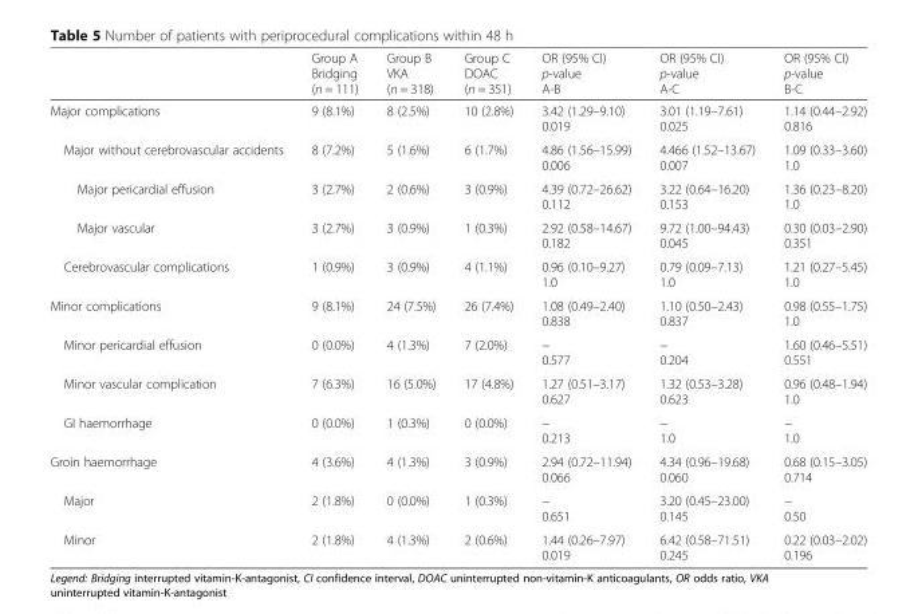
<table><thead><tr><td></td><td>Group A Bridging (n = 111)</td><td>Group B VKA (n = 318)</td><td>Group C DOAC (n = 351)</td><td>OR (95% CI) p-value A-B</td><td>OR (95% CI) p-value A-C</td><td>OR (95% CI) p-value B-C</td></tr></thead><tbody><tr><td>Major complications</td><td>9 (8.1%)</td><td>8 (2.5%)</td><td>10 (2.8%)</td><td>3.42 (1.29–9.10) 0.019</td><td>3.01 (1.19–7.61) 0.025</td><td>1.14 (0.44–2.92) 0.816</td></tr><tr><td>Major without cerebrovascular accidents</td><td>8 (7.2%)</td><td>5 (1.6%)</td><td>6 (1.7%)</td><td>4.86 (1.56–15.99) 0.006</td><td>4.466 (1.52–13.67) 0.007</td><td>1.09 (0.33–3.60) 1.0</td></tr><tr><td>Major pericardial effusion</td><td>3 (2.7%)</td><td>2 (0.6%)</td><td>3 (0.9%)</td><td>4.39 (0.72–26.62) 0.112</td><td>3.22 (0.64–16.20) 0.153</td><td>1.36 (0.23–8.20) 1.0</td></tr><tr><td>Major vascular</td><td>3 (2.7%)</td><td>3 (0.9%)</td><td>1 (0.3%)</td><td>2.92 (0.58–14.67) 0.182</td><td>9.72 (1.00–94.43) 0.045</td><td>0.30 (0.03–2.90) 0.351</td></tr><tr><td>Cerebrovascular complications</td><td>1 (0.9%)</td><td>3 (0.9%)</td><td>4 (1.1%)</td><td>0.96 (0.10–9.27) 1.0</td><td>0.79 (0.09–7.13) 1.0</td><td>1.21 (0.27–5.45) 1.0</td></tr><tr><td>Minor complications</td><td>9 (8.1%)</td><td>24 (7.5%)</td><td>26 (7.4%)</td><td>1.08 (0.49–2.40) 0.838</td><td>1.10 (0.50–2.43) 0.837</td><td>0.98 (0.55–1.75) 1.0</td></tr><tr><td>Minor pericardial effusion</td><td>0 (0.0%)</td><td>4 (1.3%)</td><td>7 (2.0%)</td><td>− 0.577</td><td>− 0.204</td><td>1.60 (0.46–5.51) 0.551</td></tr><tr><td>Minor vascular complication</td><td>7 (6.3%)</td><td>16 (5.0%)</td><td>17 (4.8%)</td><td>1.27 (0.51–3.17) 0.627</td><td>1.32 (0.53–3.28) 0.623</td><td>0.96 (0.48–1.94) 1.0</td></tr><tr><td>GI haemorrhage</td><td>0 (0.0%)</td><td>1 (0.3%)</td><td>0 (0.0%)</td><td>− 0.213</td><td>− 1.0</td><td>− 1.0</td></tr><tr><td>Groin haemorrhage</td><td>4 (3.6%)</td><td>4 (1.3%)</td><td>3 (0.9%)</td><td>2.94 (0.72–11.94) 0.066</td><td>4.34 (0.96–19.68) 0.060</td><td>0.68 (0.15–3.05) 0.714</td></tr><tr><td>Major</td><td>2 (1.8%)</td><td>0 (0.0%)</td><td>1 (0.3%)</td><td>− 0.651</td><td>3.20 (0.45–23.00) 0.145</td><td>− 0.50</td></tr><tr><td>Minor</td><td>2 (1.8%)</td><td>4 (1.3%)</td><td>2 (0.6%)</td><td>1.44 (0.26–7.97) 0.019</td><td>6.42 (0.58–71.51) 0.245</td><td>0.22 (0.03–2.02) 0.196</td></tr></tbody></table>